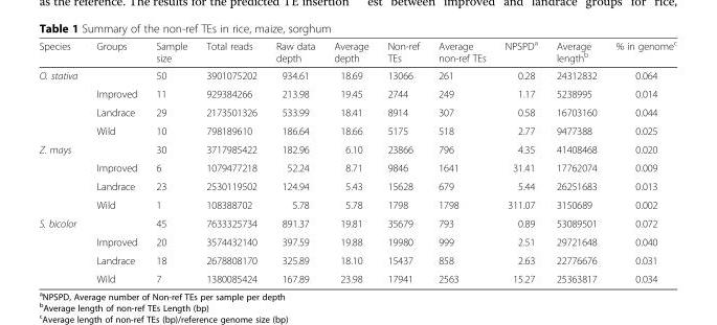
<table><thead><tr><td>Species</td><td>Groups</td><td>Sample size</td><td>Total reads</td><td>Raw data depth</td><td>Average depth</td><td>Non-ref TEs</td><td>Average non-ref TEs</td><td>NPSPD<sup>a</sup></td><td>Average length<sup>b</sup></td><td>% in genome<sup>c</sup></td></tr></thead><tbody><tr><td rowspan="4">O. stativa</td><td></td><td>50</td><td>3901075202</td><td>934.61</td><td>18.69</td><td>13066</td><td>261</td><td>0.28</td><td>24312832</td><td>0.064</td></tr><tr><td>Improved</td><td>11</td><td>929384266</td><td>213.98</td><td>19.45</td><td>2744</td><td>249</td><td>1.17</td><td>5238995</td><td>0.014</td></tr><tr><td>Landrace</td><td>29</td><td>2173501326</td><td>533.99</td><td>18.41</td><td>8914</td><td>307</td><td>0.58</td><td>16703160</td><td>0.044</td></tr><tr><td>Wild</td><td>10</td><td>798189610</td><td>186.64</td><td>18.66</td><td>5175</td><td>518</td><td>2.77</td><td>9477388</td><td>0.025</td></tr><tr><td rowspan="4">Z. mays</td><td></td><td>30</td><td>3717985422</td><td>182.96</td><td>6.10</td><td>23866</td><td>796</td><td>4.35</td><td>41408468</td><td>0.020</td></tr><tr><td>Improved</td><td>6</td><td>1079477218</td><td>52.24</td><td>8.71</td><td>9846</td><td>1641</td><td>31.41</td><td>17762074</td><td>0.009</td></tr><tr><td>Landrace</td><td>23</td><td>2530119502</td><td>124.94</td><td>5.43</td><td>15628</td><td>679</td><td>5.44</td><td>26251683</td><td>0.013</td></tr><tr><td>Wild</td><td>1</td><td>108388702</td><td>5.78</td><td>5.78</td><td>1798</td><td>1798</td><td>311.07</td><td>3150689</td><td>0.002</td></tr><tr><td rowspan="4">S. bicolor</td><td></td><td>45</td><td>7633325734</td><td>891.37</td><td>19.81</td><td>35679</td><td>793</td><td>0.89</td><td>53089501</td><td>0.072</td></tr><tr><td>Improved</td><td>20</td><td>3574432140</td><td>397.59</td><td>19.88</td><td>19980</td><td>999</td><td>2.51</td><td>29721648</td><td>0.040</td></tr><tr><td>Landrace</td><td>18</td><td>2678808170</td><td>325.89</td><td>18.10</td><td>15437</td><td>858</td><td>2.63</td><td>22776676</td><td>0.031</td></tr><tr><td>Wild</td><td>7</td><td>1380085424</td><td>167.89</td><td>23.98</td><td>17941</td><td>2563</td><td>15.27</td><td>25363817</td><td>0.034</td></tr></tbody></table>